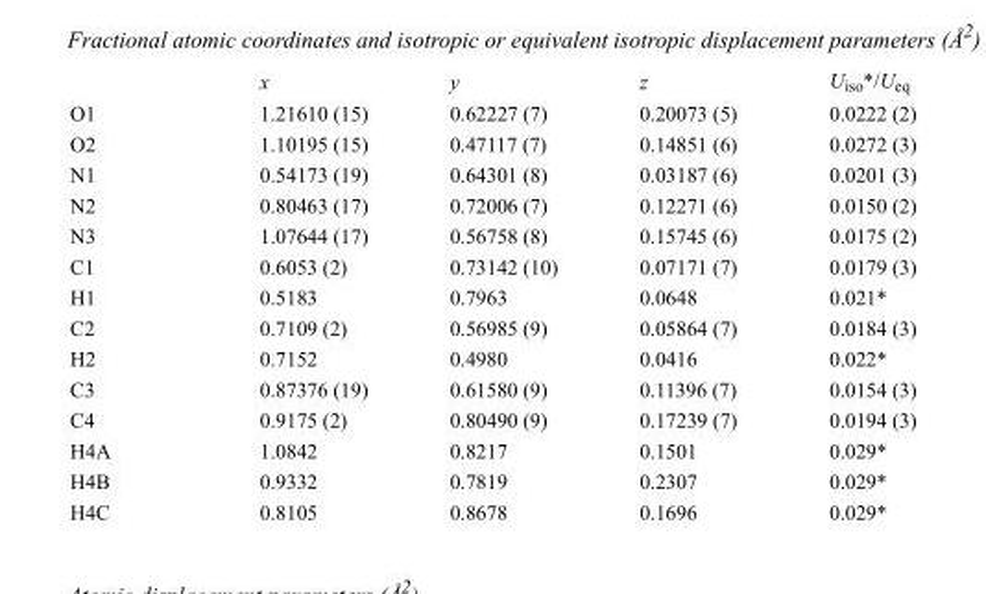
<table><thead><tr><td></td><td>x</td><td>y</td><td>z</td><td>U<sub>iso</sub>*/U<sub>eq</sub></td></tr></thead><tbody><tr><td>O1</td><td>1.21610 (15)</td><td>0.62227 (7)</td><td>0.20073 (5)</td><td>0.0222 (2)</td></tr><tr><td>O2</td><td>1.10195 (15)</td><td>0.47117 (7)</td><td>0.14851 (6)</td><td>0.0272 (3)</td></tr><tr><td>N1</td><td>0.54173 (19)</td><td>0.64301 (8)</td><td>0.03187 (6)</td><td>0.0201 (3)</td></tr><tr><td>N2</td><td>0.80463 (17)</td><td>0.72006 (7)</td><td>0.12271 (6)</td><td>0.0150 (2)</td></tr><tr><td>N3</td><td>1.07644 (17)</td><td>0.56758 (8)</td><td>0.15745 (6)</td><td>0.0175 (2)</td></tr><tr><td>C1</td><td>0.6053 (2)</td><td>0.73142 (10)</td><td>0.07171 (7)</td><td>0.0179 (3)</td></tr><tr><td>H1</td><td>0.5183</td><td>0.7963</td><td>0.0648</td><td>0.021*</td></tr><tr><td>C2</td><td>0.7109 (2)</td><td>0.56985 (9)</td><td>0.05864 (7)</td><td>0.0184 (3)</td></tr><tr><td>H2</td><td>0.7152</td><td>0.4980</td><td>0.0416</td><td>0.022*</td></tr><tr><td>C3</td><td>0.87376 (19)</td><td>0.61580 (9)</td><td>0.11396 (7)</td><td>0.0154 (3)</td></tr><tr><td>C4</td><td>0.9175 (2)</td><td>0.80490 (9)</td><td>0.17239 (7)</td><td>0.0194 (3)</td></tr><tr><td>H4A</td><td>1.0842</td><td>0.8217</td><td>0.1501</td><td>0.029*</td></tr><tr><td>H4B</td><td>0.9332</td><td>0.7819</td><td>0.2307</td><td>0.029*</td></tr><tr><td>H4C</td><td>0.8105</td><td>0.8678</td><td>0.1696</td><td>0.029*</td></tr></tbody></table>